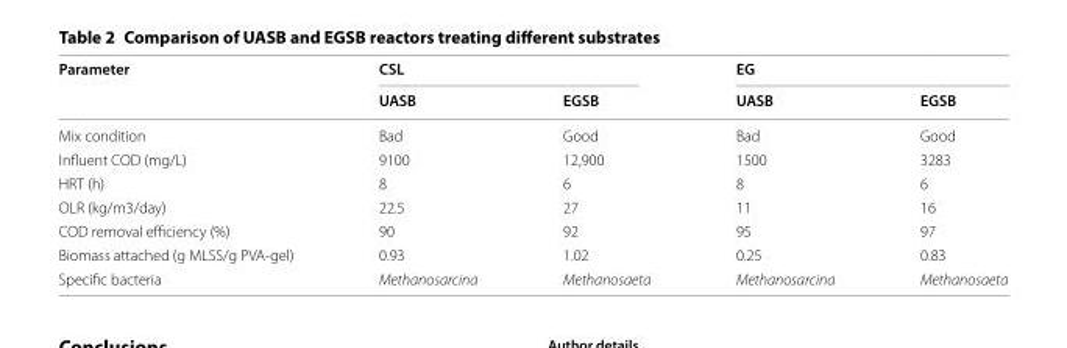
<table><thead><tr><td rowspan="2">Parameter</td><td colspan="2">CSL</td><td colspan="2">EG</td></tr><tr><td>UASB</td><td>EGSB</td><td>UASB</td><td>EGSB</td></tr></thead><tbody><tr><td>Mix condition</td><td>Bad</td><td>Good</td><td>Bad</td><td>Good</td></tr><tr><td>Influent COD (mg/L)</td><td>9100</td><td>12,900</td><td>1500</td><td>3283</td></tr><tr><td>HRT (h)</td><td>8</td><td>6</td><td>8</td><td>6</td></tr><tr><td>OLR (kg/m3/day)</td><td>22.5</td><td>27</td><td>11</td><td>16</td></tr><tr><td>COD removal efficiency (%)</td><td>90</td><td>92</td><td>95</td><td>97</td></tr><tr><td>Biomass attached (g MLSS/g PVA-gel)</td><td>0.93</td><td>1.02</td><td>0.25</td><td>0.83</td></tr><tr><td>Specific bacteria</td><td>Methanosarcina</td><td>Methanosaeta</td><td>Methanosarcina</td><td>Methanosaeta</td></tr></tbody></table>